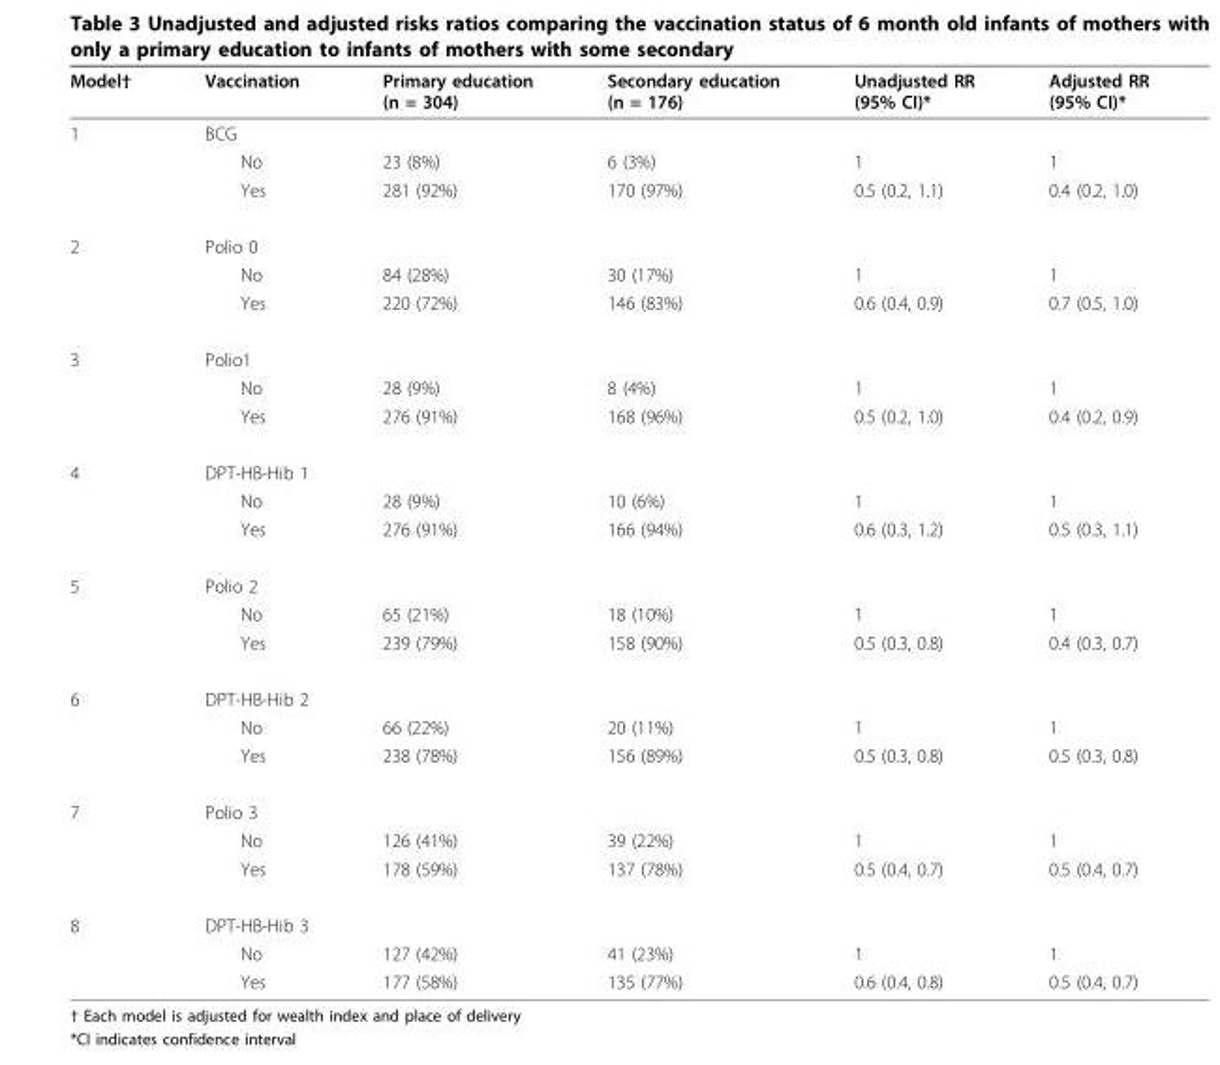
<table><thead><tr><td>Model†</td><td>Vaccination</td><td>Primary education (n = 304)</td><td>Secondary education (n = 176)</td><td>Unadjusted RR (95% CI)*</td><td>Adjusted RR (95% CI)*</td></tr></thead><tbody><tr><td rowspan="3">1</td><td>BCG</td><td></td><td></td><td></td><td></td></tr><tr><td>No</td><td>23 (8%)</td><td>6 (3%)</td><td>1</td><td>1</td></tr><tr><td>Yes</td><td>281 (92%)</td><td>170 (97%)</td><td>0.5 (0.2, 1.1)</td><td>0.4 (0.2, 1.0)</td></tr><tr><td rowspan="3">2</td><td>Polio 0</td><td></td><td></td><td></td><td></td></tr><tr><td>No</td><td>84 (28%)</td><td>30 (17%)</td><td>1</td><td>1</td></tr><tr><td>Yes</td><td>220 (72%)</td><td>146 (83%)</td><td>0.6 (0.4, 0.9)</td><td>0.7 (0.5, 1.0)</td></tr><tr><td rowspan="3">3</td><td>Polio1</td><td></td><td></td><td></td><td></td></tr><tr><td>No</td><td>28 (9%)</td><td>8 (4%)</td><td>1</td><td>1</td></tr><tr><td>Yes</td><td>276 (91%)</td><td>168 (96%)</td><td>0.5 (0.2, 1.0)</td><td>0.4 (0.2, 0.9)</td></tr><tr><td rowspan="3">4</td><td>DPT-HB-Hib 1</td><td></td><td></td><td></td><td></td></tr><tr><td>No</td><td>28 (9%)</td><td>10 (6%)</td><td>1</td><td>1</td></tr><tr><td>Yes</td><td>276 (91%)</td><td>166 (94%)</td><td>0.6 (0.3, 1.2)</td><td>0.5 (0.3, 1.1)</td></tr><tr><td rowspan="3">5</td><td>Polio 2</td><td></td><td></td><td></td><td></td></tr><tr><td>No</td><td>65 (21%)</td><td>18 (10%)</td><td>1</td><td>1</td></tr><tr><td>Yes</td><td>239 (79%)</td><td>158 (90%)</td><td>0.5 (0.3, 0.8)</td><td>0.4 (0.3, 0.7)</td></tr><tr><td rowspan="3">6</td><td>DPT-HB-Hib 2</td><td></td><td></td><td></td><td></td></tr><tr><td>No</td><td>66 (22%)</td><td>20 (11%)</td><td>1</td><td>1</td></tr><tr><td>Yes</td><td>238 (78%)</td><td>156 (89%)</td><td>0.5 (0.3, 0.8)</td><td>0.5 (0.3, 0.8)</td></tr><tr><td rowspan="3">7</td><td>Polio 3</td><td></td><td></td><td></td><td></td></tr><tr><td>No</td><td>126 (41%)</td><td>39 (22%)</td><td>1</td><td>1</td></tr><tr><td>Yes</td><td>178 (59%)</td><td>137 (78%)</td><td>0.5 (0.4, 0.7)</td><td>0.5 (0.4, 0.7)</td></tr><tr><td rowspan="3">8</td><td>DPT-HB-Hib 3</td><td></td><td></td><td></td><td></td></tr><tr><td>No</td><td>127 (42%)</td><td>41 (23%)</td><td>1</td><td>1</td></tr><tr><td>Yes</td><td>177 (58%)</td><td>135 (77%)</td><td>0.6 (0.4, 0.8)</td><td>0.5 (0.4, 0.7)</td></tr></tbody></table>